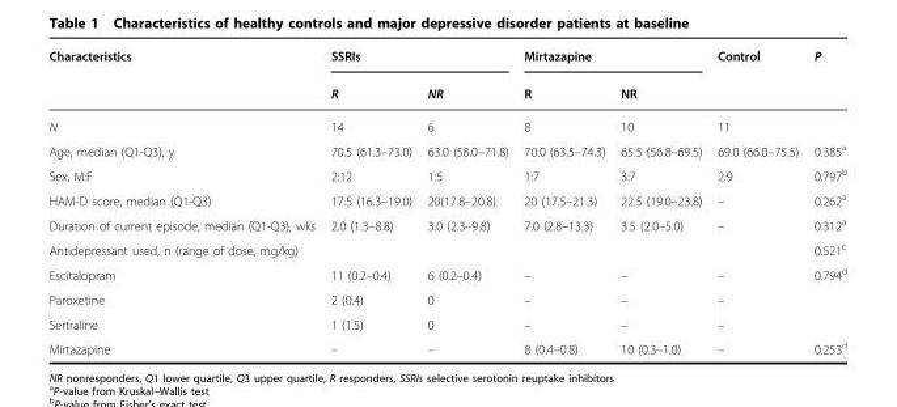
<table><thead><tr><td rowspan="2">Characteristics</td><td colspan="2">SSRIs</td><td colspan="2">Mirtazapine</td><td rowspan="2">Control</td><td rowspan="2">P</td></tr><tr><td>R</td><td>NR</td><td>R</td><td>NR</td></tr></thead><tbody><tr><td>N</td><td>14</td><td>6</td><td>8</td><td>10</td><td>11</td><td></td></tr><tr><td>Age, median (Q1-Q3), y</td><td>70.5 (61.3–73.0)</td><td>63.0 (58.0–71.8)</td><td>70.0 (63.5–74.3)</td><td>65.5 (56.8–69.5)</td><td>69.0 (66.0–75.5)</td><td>0.385<sup>a</sup></td></tr><tr><td>Sex, M:F</td><td>2:12</td><td>1:5</td><td>1:7</td><td>3:7</td><td>2:9</td><td>0.797<sup>b</sup></td></tr><tr><td>HAM-D score, median (Q1-Q3)</td><td>17.5 (16.3–19.0)</td><td>20(17.8–20.8)</td><td>20 (17.5–21.3)</td><td>22.5 (19.0–23.8)</td><td>–</td><td>0.262<sup>a</sup></td></tr><tr><td>Duration of current episode, median (Q1-Q3), wks</td><td>2.0 (1.3–8.8)</td><td>3.0 (2.3–9.8)</td><td>7.0 (2.8–13.3)</td><td>3.5 (2.0–5.0)</td><td>–</td><td>0.312<sup>a</sup></td></tr><tr><td>Antidepressant used, n (range of dose, mg/kg)</td><td></td><td></td><td></td><td></td><td></td><td>0.521<sup>c</sup></td></tr><tr><td>Escitalopram</td><td>11 (0.2–0.4)</td><td>6 (0.2–0.4)</td><td>–</td><td>–</td><td>–</td><td>0.794<sup>d</sup></td></tr><tr><td>Paroxetine</td><td>2 (0.4)</td><td>0</td><td>–</td><td>–</td><td>–</td><td></td></tr><tr><td>Sertraline</td><td>1 (1.5)</td><td>0</td><td>–</td><td>–</td><td>–</td><td></td></tr><tr><td>Mirtazapine</td><td>–</td><td>–</td><td>8 (0.4–0.8)</td><td>10 (0.3–1.0)</td><td>–</td><td>0.253<sup>d</sup></td></tr></tbody></table>